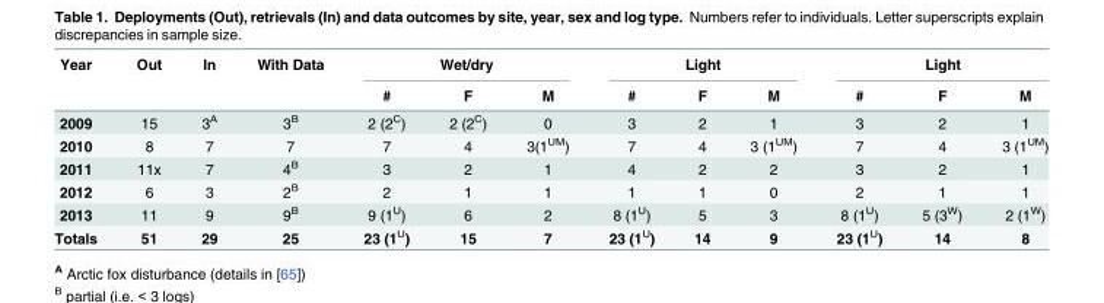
<table><thead><tr><td rowspan="2">Year</td><td rowspan="2">Out</td><td rowspan="2">In</td><td rowspan="2">With Data</td><td colspan="3">Wet/dry</td><td colspan="3">Light</td><td colspan="3">Light</td></tr><tr><td>#</td><td>F</td><td>M</td><td>#</td><td>F</td><td>M</td><td>#</td><td>F</td><td>M</td></tr></thead><tbody><tr><td>2009</td><td>15</td><td>3<sup>A</sup></td><td>3<sup>B</sup></td><td>2 (2<sup>C</sup>)</td><td>2 (2<sup>C</sup>)</td><td>0</td><td>3</td><td>2</td><td>1</td><td>3</td><td>2</td><td>1</td></tr><tr><td>2010</td><td>8</td><td>7</td><td>7</td><td>7</td><td>4</td><td>3(1<sup>UM</sup>)</td><td>7</td><td>4</td><td>3 (1<sup>UM</sup>)</td><td>7</td><td>4</td><td>3 (1<sup>UM</sup>)</td></tr><tr><td>2011</td><td>11x</td><td>7</td><td>4<sup>B</sup></td><td>3</td><td>2</td><td>1</td><td>4</td><td>2</td><td>2</td><td>3</td><td>2</td><td>1</td></tr><tr><td>2012</td><td>6</td><td>3</td><td>2<sup>B</sup></td><td>2</td><td>1</td><td>1</td><td>1</td><td>1</td><td>0</td><td>2</td><td>1</td><td>1</td></tr><tr><td>2013</td><td>11</td><td>9</td><td>9<sup>B</sup></td><td>9 (1<sup>U</sup>)</td><td>6</td><td>2</td><td>8 (1<sup>U</sup>)</td><td>5</td><td>3</td><td>8 (1<sup>U</sup>)</td><td>5 (3<sup>W</sup>)</td><td>2 (1<sup>W</sup>)</td></tr><tr><td>Totals</td><td>51</td><td>29</td><td>25</td><td>23 (1<sup>U</sup>)</td><td>15</td><td>7</td><td>23 (1<sup>U</sup>)</td><td>14</td><td>9</td><td>23 (1<sup>U</sup>)</td><td>14</td><td>8</td></tr></tbody></table>